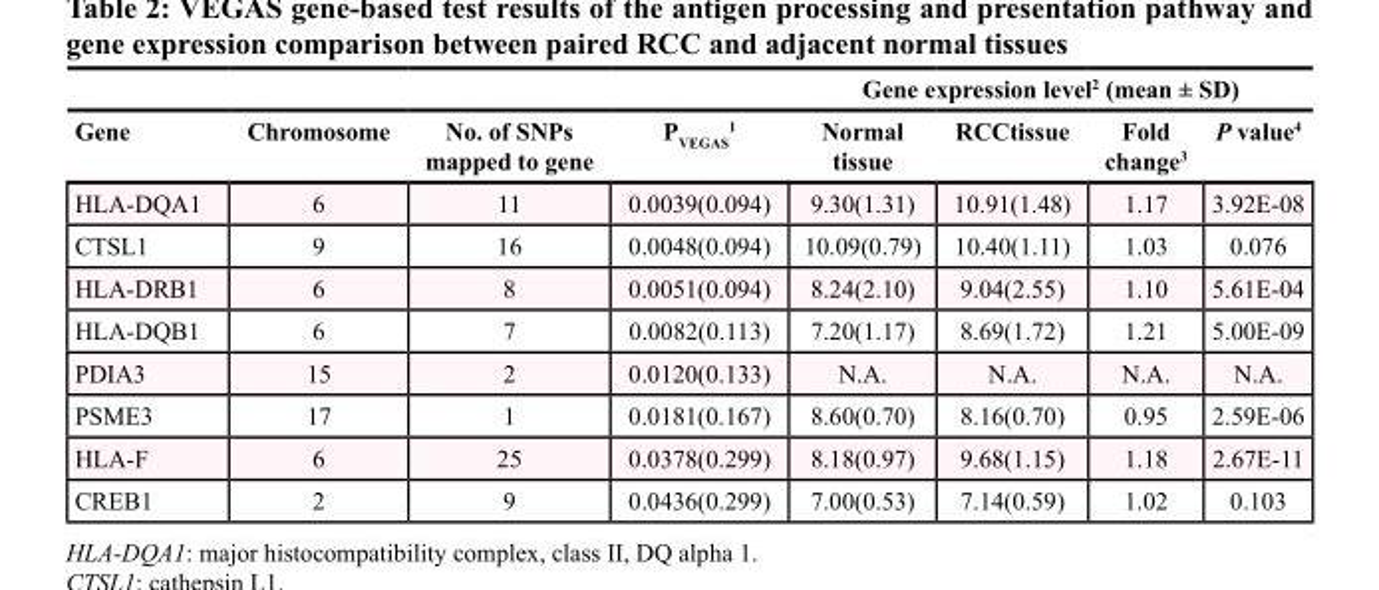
<table><thead><tr><td rowspan="2">Gene</td><td rowspan="2">Chromosome</td><td rowspan="2">No. of SNPs mapped to gene</td><td rowspan="2">P<sub>VEGAS</sub> <sup>1</sup></td><td colspan="4">Gene expression level<sup>2</sup> (mean ± SD)</td></tr><tr><td>Normal tissue</td><td>RCCtissue</td><td>Fold change<sup>3</sup></td><td>P value<sup>4</sup></td></tr></thead><tbody><tr><td>HLA-DQA1</td><td>6</td><td>11</td><td>0.0039(0.094)</td><td>9.30(1.31)</td><td>10.91(1.48)</td><td>1.17</td><td>3.92E-08</td></tr><tr><td>CTSL1</td><td>9</td><td>16</td><td>0.0048(0.094)</td><td>10.09(0.79)</td><td>10.40(1.11)</td><td>1.03</td><td>0.076</td></tr><tr><td>HLA-DRB1</td><td>6</td><td>8</td><td>0.0051(0.094)</td><td>8.24(2.10)</td><td>9.04(2.55)</td><td>1.10</td><td>5.61E-04</td></tr><tr><td>HLA-DQB1</td><td>6</td><td>7</td><td>0.0082(0.113)</td><td>7.20(1.17)</td><td>8.69(1.72)</td><td>1.21</td><td>5.00E-09</td></tr><tr><td>PDIA3</td><td>15</td><td>2</td><td>0.0120(0.133)</td><td>N.A.</td><td>N.A.</td><td>N.A.</td><td>N.A.</td></tr><tr><td>PSME3</td><td>17</td><td>1</td><td>0.0181(0.167)</td><td>8.60(0.70)</td><td>8.16(0.70)</td><td>0.95</td><td>2.59E-06</td></tr><tr><td>HLA-F</td><td>6</td><td>25</td><td>0.0378(0.299)</td><td>8.18(0.97)</td><td>9.68(1.15)</td><td>1.18</td><td>2.67E-11</td></tr><tr><td>CREB1</td><td>2</td><td>9</td><td>0.0436(0.299)</td><td>7.00(0.53)</td><td>7.14(0.59)</td><td>1.02</td><td>0.103</td></tr></tbody></table>